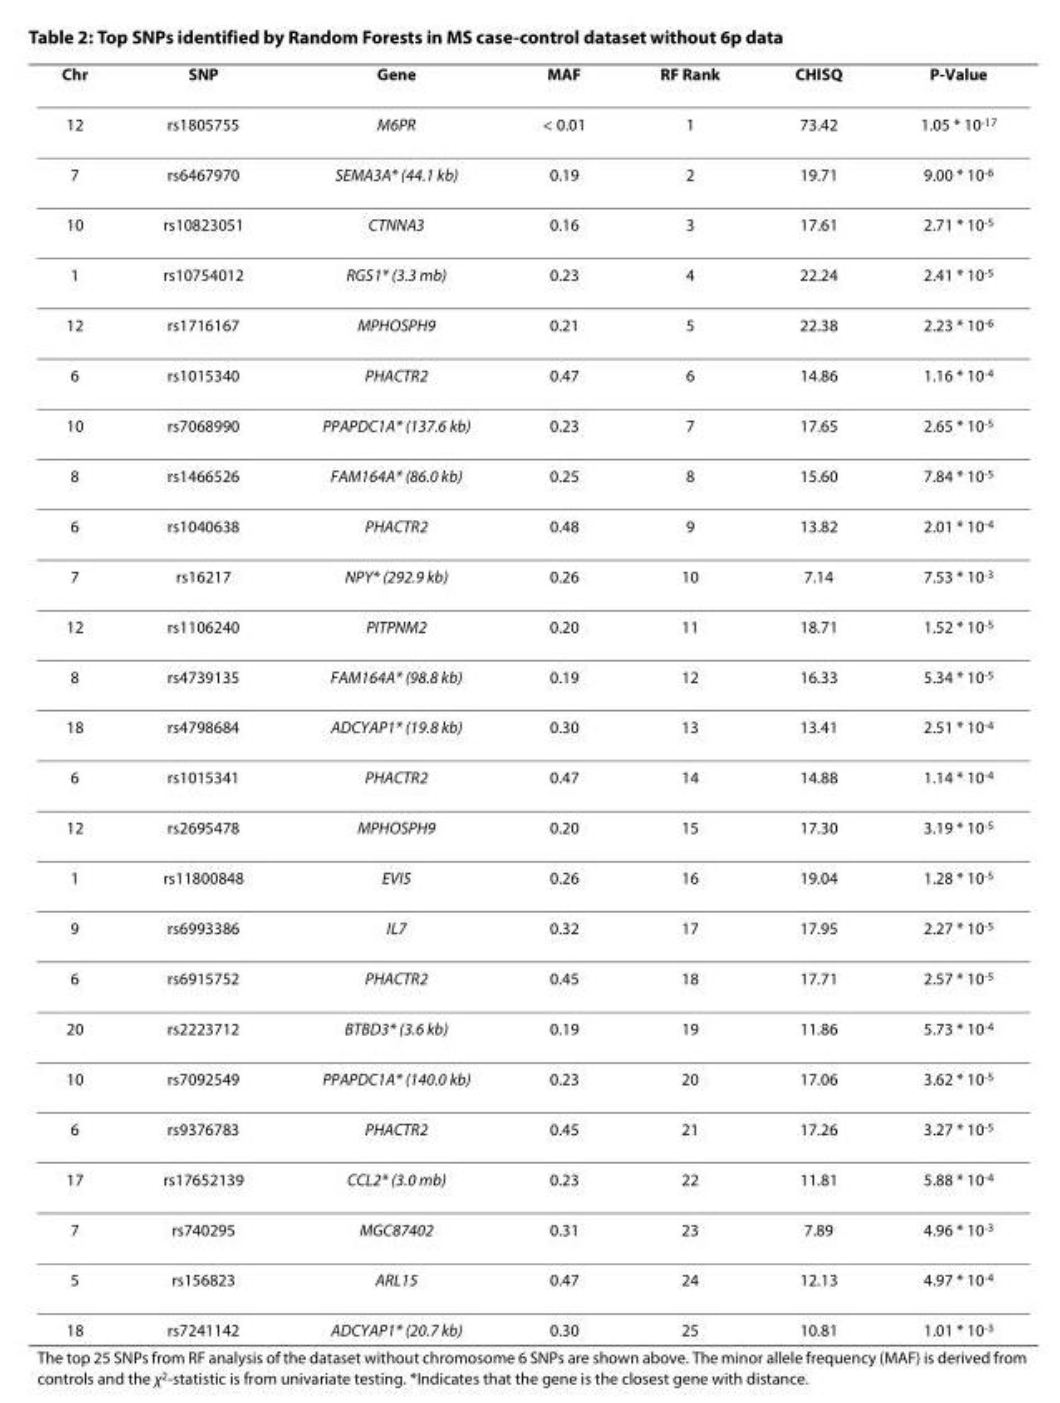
<table><thead><tr><td>Chr</td><td>SNP</td><td>Gene</td><td>MAF</td><td>RF Rank</td><td>CHISQ</td><td>P-Value</td></tr></thead><tbody><tr><td>12</td><td>rs1805755</td><td>M6PR</td><td>&lt; 0.01</td><td>1</td><td>73.42</td><td>1.05 * 10<sup>-17</sup></td></tr><tr><td>7</td><td>rs6467970</td><td>SEMA3A* (44.1 kb)</td><td>0.19</td><td>2</td><td>19.71</td><td>9.00 * 10<sup>-6</sup></td></tr><tr><td>10</td><td>rs10823051</td><td>CTNNA3</td><td>0.16</td><td>3</td><td>17.61</td><td>2.71 * 10<sup>-5</sup></td></tr><tr><td>1</td><td>rs10754012</td><td>RGS1* (3.3 mb)</td><td>0.23</td><td>4</td><td>22.24</td><td>2.41 * 10<sup>-5</sup></td></tr><tr><td>12</td><td>rs1716167</td><td>MPHOSPH9</td><td>0.21</td><td>5</td><td>22.38</td><td>2.23 * 10<sup>-6</sup></td></tr><tr><td>6</td><td>rs1015340</td><td>PHACTR2</td><td>0.47</td><td>6</td><td>14.86</td><td>1.16 * 10<sup>-4</sup></td></tr><tr><td>10</td><td>rs7068990</td><td>PPAPDC1A* (137.6 kb)</td><td>0.23</td><td>7</td><td>17.65</td><td>2.65 * 10<sup>-5</sup></td></tr><tr><td>8</td><td>rs1466526</td><td>FAM164A* (86.0 kb)</td><td>0.25</td><td>8</td><td>15.60</td><td>7.84 * 10<sup>-5</sup></td></tr><tr><td>6</td><td>rs1040638</td><td>PHACTR2</td><td>0.48</td><td>9</td><td>13.82</td><td>2.01 * 10<sup>-4</sup></td></tr><tr><td>7</td><td>rs16217</td><td>NPY* (292.9 kb)</td><td>0.26</td><td>10</td><td>7.14</td><td>7.53 * 10<sup>-3</sup></td></tr><tr><td>12</td><td>rs1106240</td><td>PITPNM2</td><td>0.20</td><td>11</td><td>18.71</td><td>1.52 * 10<sup>-5</sup></td></tr><tr><td>8</td><td>rs4739135</td><td>FAM164A* (98.8 kb)</td><td>0.19</td><td>12</td><td>16.33</td><td>5.34 * 10<sup>-5</sup></td></tr><tr><td>18</td><td>rs4798684</td><td>ADCYAP1* (19.8 kb)</td><td>0.30</td><td>13</td><td>13.41</td><td>2.51 * 10<sup>-4</sup></td></tr><tr><td>6</td><td>rs1015341</td><td>PHACTR2</td><td>0.47</td><td>14</td><td>14.88</td><td>1.14 * 10<sup>-4</sup></td></tr><tr><td>12</td><td>rs2695478</td><td>MPHOSPH9</td><td>0.20</td><td>15</td><td>17.30</td><td>3.19 * 10<sup>-5</sup></td></tr><tr><td>1</td><td>rs11800848</td><td>EVI5</td><td>0.26</td><td>16</td><td>19.04</td><td>1.28 * 10<sup>-5</sup></td></tr><tr><td>9</td><td>rs6993386</td><td>IL7</td><td>0.32</td><td>17</td><td>17.95</td><td>2.27 * 10<sup>-5</sup></td></tr><tr><td>6</td><td>rs6915752</td><td>PHACTR2</td><td>0.45</td><td>18</td><td>17.71</td><td>2.57 * 10<sup>-5</sup></td></tr><tr><td>20</td><td>rs2223712</td><td>BTBD3* (3.6 kb)</td><td>0.19</td><td>19</td><td>11.86</td><td>5.73 * 10<sup>-4</sup></td></tr><tr><td>10</td><td>rs7092549</td><td>PPAPDC1A* (140.0 kb)</td><td>0.23</td><td>20</td><td>17.06</td><td>3.62 * 10<sup>-5</sup></td></tr><tr><td>6</td><td>rs9376783</td><td>PHACTR2</td><td>0.45</td><td>21</td><td>17.26</td><td>3.27 * 10<sup>-5</sup></td></tr><tr><td>17</td><td>rs17652139</td><td>CCL2* (3.0 mb)</td><td>0.23</td><td>22</td><td>11.81</td><td>5.88 * 10<sup>-4</sup></td></tr><tr><td>7</td><td>rs740295</td><td>MGC87402</td><td>0.31</td><td>23</td><td>7.89</td><td>4.96 * 10<sup>-3</sup></td></tr><tr><td>5</td><td>rs156823</td><td>ARL15</td><td>0.47</td><td>24</td><td>12.13</td><td>4.97 * 10<sup>-4</sup></td></tr><tr><td>18</td><td>rs7241142</td><td>ADCYAP1* (20.7 kb)</td><td>0.30</td><td>25</td><td>10.81</td><td>1.01 * 10<sup>-3</sup></td></tr></tbody></table>